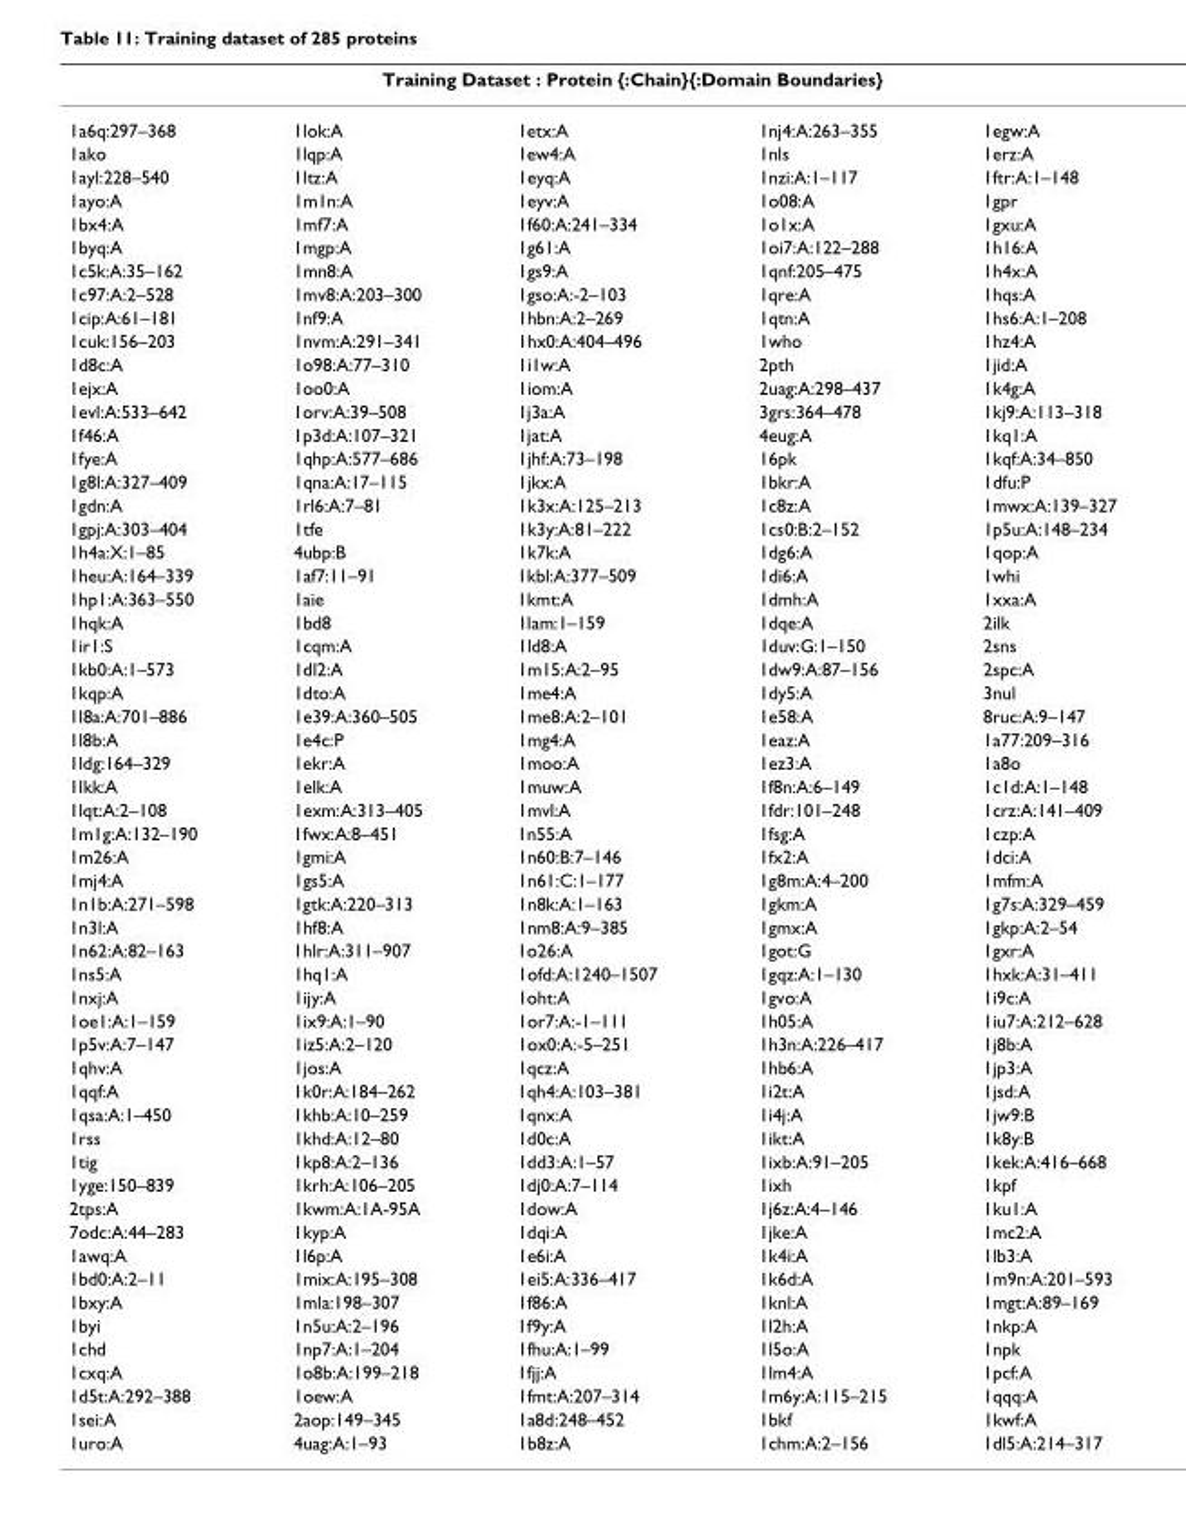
<table><thead><tr><td colspan="5">Training Dataset : Protein {:Chain}{:Domain Boundaries}</td></tr><tr><td>1a6q:297–368</td><td>1lok:A</td><td>1etx:A</td><td>1nj4:A:263–355</td><td>1egw:A</td></tr></thead><tbody><tr><td>1ako</td><td>1lqp:A</td><td>1ew4:A</td><td>1nls</td><td>1erz:A</td></tr><tr><td>1ayl:228–540</td><td>1ltz:A</td><td>1eyq:A</td><td>1nzi:A:1–117</td><td>1ftr:A:1–148</td></tr><tr><td>1ayo:A</td><td>1m1n:A</td><td>1eyv:A</td><td>1o08:A</td><td>1gpr</td></tr><tr><td>1bx4:A</td><td>1mf7:A</td><td>1f60:A:241–334</td><td>1o1x:A</td><td>1gxu:A</td></tr><tr><td>1byq:A</td><td>1mgp:A</td><td>1g61:A</td><td>1oi7:A:122–288</td><td>1h16:A</td></tr><tr><td>1c5k:A:35–162</td><td>1mn8:A</td><td>1gs9:A</td><td>1qnf:205–475</td><td>1h4x:A</td></tr><tr><td>1c97:A:2–528</td><td>1mv8:A:203–300</td><td>1gso:A:-2–103</td><td>1qre:A</td><td>1hqs:A</td></tr><tr><td>1cip:A:61–181</td><td>1nf9:A</td><td>1hbn:A:2–269</td><td>1qtn:A</td><td>1hs6:A:1–208</td></tr><tr><td>1cuk:156–203</td><td>1nvm:A:291–341</td><td>1hx0:A:404–496</td><td>1who</td><td>1hz4:A</td></tr><tr><td>1d8c:A</td><td>1o98:A:77–310</td><td>1i1w:A</td><td>2pth</td><td>1jid:A</td></tr><tr><td>1ejx:A</td><td>1oo0:A</td><td>1iom:A</td><td>2uag:A:298–437</td><td>1k4g:A</td></tr><tr><td>1evl:A:533–642</td><td>1orv:A:39–508</td><td>1j3a:A</td><td>3grs:364–478</td><td>1kj9:A:113–318</td></tr><tr><td>1f46:A</td><td>1p3d:A:107–321</td><td>1jat:A</td><td>4eug:A</td><td>1kq1:A</td></tr><tr><td>1fye:A</td><td>1qhp:A:577–686</td><td>1jhf:A:73–198</td><td>16pk</td><td>1kqf:A:34–850</td></tr><tr><td>1g8l:A:327–409</td><td>1qna:A:17–115</td><td>1jkx:A</td><td>1bkr:A</td><td>1dfu:P</td></tr><tr><td>1gdn:A</td><td>1rl6:A:7–81</td><td>1k3x:A:125–213</td><td>1c8z:A</td><td>1mwx:A:139–327</td></tr><tr><td>1gpj:A:303–404</td><td>1tfe</td><td>1k3y:A:81–222</td><td>1cs0:B:2–152</td><td>1p5u:A:148–234</td></tr><tr><td>1h4a:X:1–85</td><td>4ubp:B</td><td>1k7k:A</td><td>1dg6:A</td><td>1qop:A</td></tr><tr><td>1heu:A:164–339</td><td>1af7:11–91</td><td>1kbl:A:377–509</td><td>1di6:A</td><td>1whi</td></tr><tr><td>1hp1:A:363–550</td><td>1aie</td><td>1kmt:A</td><td>1dmh:A</td><td>1xxa:A</td></tr><tr><td>1hqk:A</td><td>1bd8</td><td>1lam:1–159</td><td>1dqe:A</td><td>2ilk</td></tr><tr><td>1ir1:S</td><td>1cqm:A</td><td>1ld8:A</td><td>1duv:G:1–150</td><td>2sns</td></tr><tr><td>1kb0:A:1–573</td><td>1dl2:A</td><td>1m15:A:2–95</td><td>1dw9:A:87–156</td><td>2spc:A</td></tr><tr><td>1kqp:A</td><td>1dto:A</td><td>1me4:A</td><td>1dy5:A</td><td>3nul</td></tr><tr><td>1l8a:A:701–886</td><td>1e39:A:360–505</td><td>1me8:A:2–101</td><td>1e58:A</td><td>8ruc:A:9–147</td></tr><tr><td>1l8b:A</td><td>1e4c:P</td><td>1mg4:A</td><td>1eaz:A</td><td>1a77:209–316</td></tr><tr><td>1ldg:164–329</td><td>1ekr:A</td><td>1moo:A</td><td>1ez3:A</td><td>1a8o</td></tr><tr><td>1lkk:A</td><td>1elk:A</td><td>1muw:A</td><td>1f8n:A:6–149</td><td>1c1d:A:1–148</td></tr><tr><td>1lqt:A:2–108</td><td>1exm:A:313–405</td><td>1mvl:A</td><td>1fdr:101–248</td><td>1crz:A:141–409</td></tr><tr><td>1m1g:A:132–190</td><td>1fwx:A:8–451</td><td>1n55:A</td><td>1fsg:A</td><td>1czp:A</td></tr><tr><td>1m26:A</td><td>1gmi:A</td><td>1n60:B:7–146</td><td>1fx2:A</td><td>1dci:A</td></tr><tr><td>1mj4:A</td><td>1gs5:A</td><td>1n61:C:1–177</td><td>1g8m:A:4–200</td><td>1mfm:A</td></tr><tr><td>1n1b:A:271–598</td><td>1gtk:A:220–313</td><td>1n8k:A:1–163</td><td>1gkm:A</td><td>1g7s:A:329–459</td></tr><tr><td>1n3l:A</td><td>1hf8:A</td><td>1nm8:A:9–385</td><td>1gmx:A</td><td>1gkp:A:2–54</td></tr><tr><td>1n62:A:82–163</td><td>1hlr:A:311–907</td><td>1o26:A</td><td>1got:G</td><td>1gxr:A</td></tr><tr><td>1ns5:A</td><td>1hq1:A</td><td>1ofd:A:1240–1507</td><td>1gqz:A:1–130</td><td>1hxk:A:31–411</td></tr><tr><td>1nxj:A</td><td>1ijy:A</td><td>1oht:A</td><td>1gvo:A</td><td>1i9c:A</td></tr><tr><td>1oe1:A:1–159</td><td>1ix9:A:1–90</td><td>1or7:A:-1–111</td><td>1h05:A</td><td>1iu7:A:212–628</td></tr><tr><td>1p5v:A:7–147</td><td>1iz5:A:2–120</td><td>1ox0:A:-5–251</td><td>1h3n:A:226–417</td><td>1j8b:A</td></tr><tr><td>1qhv:A</td><td>1jos:A</td><td>1qcz:A</td><td>1hb6:A</td><td>1jp3:A</td></tr><tr><td>1qqf:A</td><td>1k0r:A:184–262</td><td>1qh4:A:103–381</td><td>1i2t:A</td><td>1jsd:A</td></tr><tr><td>1qsa:A:1–450</td><td>1khb:A:10–259</td><td>1qnx:A</td><td>1i4j:A</td><td>1jw9:B</td></tr><tr><td>1rss</td><td>1khd:A:12–80</td><td>1d0c:A</td><td>1ikt:A</td><td>1k8y:B</td></tr><tr><td>1tig</td><td>1kp8:A:2–136</td><td>1dd3:A:1–57</td><td>1ixb:A:91–205</td><td>1kek:A:416–668</td></tr><tr><td>1yge:150–839</td><td>1krh:A:106–205</td><td>1dj0:A:7–114</td><td>1ixh</td><td>1kpf</td></tr><tr><td>2tps:A</td><td>1kwm:A:1A-95A</td><td>1dow:A</td><td>1j6z:A:4–146</td><td>1ku1:A</td></tr><tr><td>7odc:A:44–283</td><td>1kyp:A</td><td>1dqi:A</td><td>1jke:A</td><td>1mc2:A</td></tr><tr><td>1awq:A</td><td>1l6p:A</td><td>1e6i:A</td><td>1k4i:A</td><td>1lb3:A</td></tr><tr><td>1bd0:A:2–11</td><td>1mix:A:195–308</td><td>1ei5:A:336–417</td><td>1k6d:A</td><td>1m9n:A:201–593</td></tr><tr><td>1bxy:A</td><td>1mla:198–307</td><td>1f86:A</td><td>1knl:A</td><td>1mgt:A:89–169</td></tr><tr><td>1byi</td><td>1n5u:A:2–196</td><td>1f9y:A</td><td>1l2h:A</td><td>1nkp:A</td></tr><tr><td>1chd</td><td>1np7:A:1–204</td><td>1fhu:A:1–99</td><td>1l5o:A</td><td>1npk</td></tr><tr><td>1cxq:A</td><td>1o8b:A:199–218</td><td>1fjj:A</td><td>1lm4:A</td><td>1pcf:A</td></tr><tr><td>1d5t:A:292–388</td><td>1oew:A</td><td>1fmt:A:207–314</td><td>1m6y:A:115–215</td><td>1qqq:A</td></tr><tr><td>1sei:A</td><td>2aop:149–345</td><td>1a8d:248–452</td><td>1bkf</td><td>1kwf:A</td></tr><tr><td>1uro:A</td><td>4uag:A:1–93</td><td>1b8z:A</td><td>1chm:A:2–156</td><td>1dl5:A:214–317</td></tr></tbody></table>